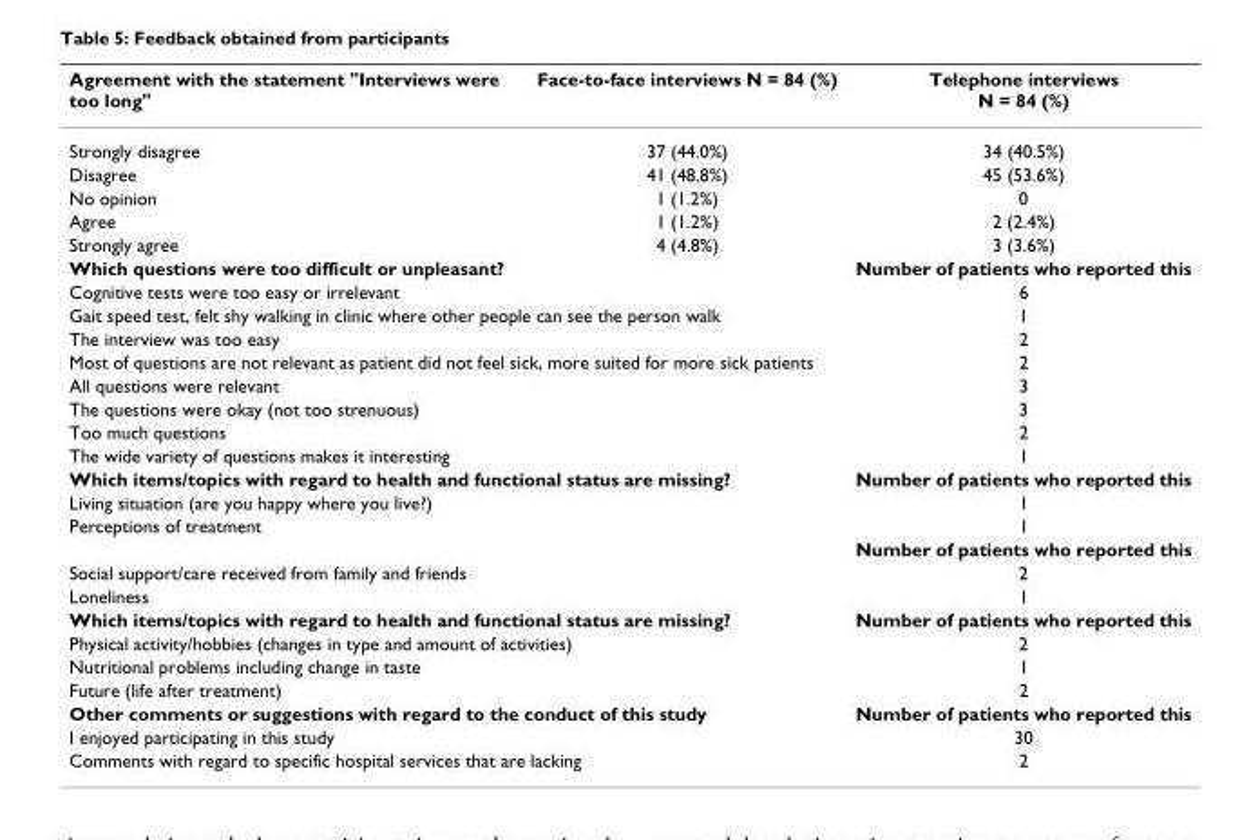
<table><thead><tr><td>Agreement with the statement &quot;Interviews were too long&quot;</td><td>Face-to-face interviews N = 84 (%)</td><td>Telephone interviews N = 84 (%)</td></tr></thead><tbody><tr><td>Strongly disagree</td><td>37 (44.0%)</td><td>34 (40.5%)</td></tr><tr><td>Disagree</td><td>41 (48.8%)</td><td>45 (53.6%)</td></tr><tr><td>No opinion</td><td>1 (1.2%)</td><td>0</td></tr><tr><td>Agree</td><td>1 (1.2%)</td><td>2 (2.4%)</td></tr><tr><td>Strongly agree</td><td>4 (4.8%)</td><td>3 (3.6%)</td></tr><tr><td colspan="2">Which questions were too difficult or unpleasant?</td><td>Number of patients who reported this</td></tr><tr><td colspan="2">Cognitive tests were too easy or irrelevant</td><td>6</td></tr><tr><td colspan="2">Gait speed test, felt shy walking in clinic where other people can see the person walk</td><td>1</td></tr><tr><td colspan="2">The interview was too easy</td><td>2</td></tr><tr><td colspan="2">Most of questions are not relevant as patient did not feel sick, more suited for more sick patients</td><td>2</td></tr><tr><td colspan="2">All questions were relevant</td><td>3</td></tr><tr><td colspan="2">The questions were okay (not too strenuous)</td><td>3</td></tr><tr><td colspan="2">Too much questions</td><td>2</td></tr><tr><td colspan="2">The wide variety of questions makes it interesting</td><td>1</td></tr><tr><td colspan="2">Which items/topics with regard to health and functional status are missing?</td><td>Number of patients who reported this</td></tr><tr><td colspan="2">Living situation (are you happy where you live?)</td><td>1</td></tr><tr><td colspan="2">Perceptions of treatment</td><td>1</td></tr><tr><td></td><td></td><td>Number of patients who reported this</td></tr><tr><td colspan="2">Social support/care received from family and friends</td><td>2</td></tr><tr><td colspan="2">Loneliness</td><td>1</td></tr><tr><td colspan="2">Which items/topics with regard to health and functional status are missing?</td><td>Number of patients who reported this</td></tr><tr><td colspan="2">Physical activity/hobbies (changes in type and amount of activities)</td><td>2</td></tr><tr><td colspan="2">Nutritional problems including change in taste</td><td>1</td></tr><tr><td colspan="2">Future (life after treatment)</td><td>2</td></tr><tr><td colspan="2">Other comments or suggestions with regard to the conduct of this study</td><td>Number of patients who reported this</td></tr><tr><td colspan="2">I enjoyed participating in this study</td><td>30</td></tr><tr><td colspan="2">Comments with regard to specific hospital services that are lacking</td><td>2</td></tr></tbody></table>